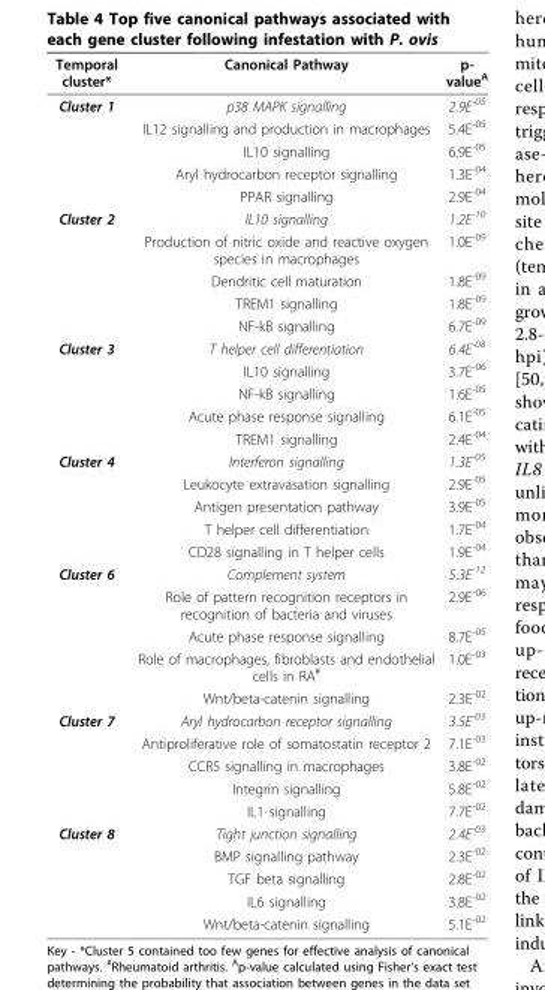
<table><thead><tr><td>Temporal cluster*</td><td>Canonical Pathway</td><td>p- value<sup>A</sup></td></tr></thead><tbody><tr><td rowspan="5">Cluster 1</td><td>p38 MAPK signalling</td><td>2.9E<sup>-05</sup></td></tr><tr><td>IL12 signalling and production in macrophages</td><td>5.4E<sup>-05</sup></td></tr><tr><td>IL10 signalling</td><td>6.9E<sup>-05</sup></td></tr><tr><td>Aryl hydrocarbon receptor signalling</td><td>1.3E<sup>-04</sup></td></tr><tr><td>PPAR signalling</td><td>2.9E<sup>-04</sup></td></tr><tr><td rowspan="5">Cluster 2</td><td>IL10 signalling</td><td>1.2E<sup>-10</sup></td></tr><tr><td>Production of nitric oxide and reactive oxygen species in macrophages</td><td>1.0E<sup>-09</sup></td></tr><tr><td>Dendritic cell maturation</td><td>1.8E<sup>-09</sup></td></tr><tr><td>TREM1 signalling</td><td>1.8E<sup>-09</sup></td></tr><tr><td>NF-kB signalling</td><td>6.7E<sup>-09</sup></td></tr><tr><td rowspan="5">Cluster 3</td><td>T helper cell differentiation</td><td>6.4E<sup>-08</sup></td></tr><tr><td>IL10 signalling</td><td>3.7E<sup>-06</sup></td></tr><tr><td>NF-kB signalling</td><td>1.6E<sup>-05</sup></td></tr><tr><td>Acute phase response signalling</td><td>6.1E<sup>-05</sup></td></tr><tr><td>TREM1 signalling</td><td>2.4E<sup>-04</sup></td></tr><tr><td rowspan="5">Cluster 4</td><td>Interferon signalling</td><td>1.3E<sup>-05</sup></td></tr><tr><td>Leukocyte extravasation signalling</td><td>2.9E<sup>-05</sup></td></tr><tr><td>Antigen presentation pathway</td><td>3.9E<sup>-05</sup></td></tr><tr><td>T helper cell differentiation</td><td>1.7E<sup>-04</sup></td></tr><tr><td>CD28 signalling in T helper cells</td><td>1.9E<sup>-04</sup></td></tr><tr><td rowspan="5">Cluster 6</td><td>Complement system</td><td>5.3E<sup>-12</sup></td></tr><tr><td>Role of pattern recognition receptors in recognition of bacteria and viruses</td><td>2.9E<sup>-06</sup></td></tr><tr><td>Acute phase response signalling</td><td>8.7E<sup>-05</sup></td></tr><tr><td>Role of macrophages, fibroblasts and endothelial cells in RA<sup>#</sup></td><td>1.0E<sup>-03</sup></td></tr><tr><td>Wnt/beta-catenin signalling</td><td>2.3E<sup>-02</sup></td></tr><tr><td rowspan="5">Cluster 7</td><td>Aryl hydrocarbon receptor signalling</td><td>3.5E<sup>-03</sup></td></tr><tr><td>Antiproliferative role of somatostatin receptor 2</td><td>7.1E<sup>-03</sup></td></tr><tr><td>CCR5 signalling in macrophages</td><td>3.8E<sup>-02</sup></td></tr><tr><td>Integrin signalling</td><td>5.8E<sup>-02</sup></td></tr><tr><td>IL1 signalling</td><td>7.7E<sup>-02</sup></td></tr><tr><td rowspan="5">Cluster 8</td><td>Tight junction signalling</td><td>2.4E<sup>-03</sup></td></tr><tr><td>BMP signalling pathway</td><td>2.3E<sup>-02</sup></td></tr><tr><td>TGF beta signalling</td><td>2.8E<sup>-02</sup></td></tr><tr><td>IL6 signalling</td><td>3.8E<sup>-02</sup></td></tr><tr><td>Wnt/beta-catenin signalling</td><td>5.1E<sup>-02</sup></td></tr></tbody></table>